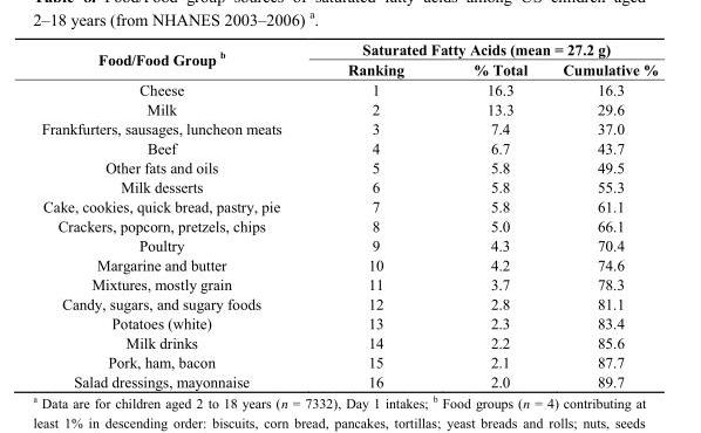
<table><thead><tr><td rowspan="2">Food/Food Group <sup>b</sup></td><td colspan="3">Saturated Fatty Acids (mean = 27.2 g)</td></tr><tr><td>Ranking</td><td>% Total</td><td>Cumulative %</td></tr></thead><tbody><tr><td>Cheese</td><td>1</td><td>16.3</td><td>16.3</td></tr><tr><td>Milk</td><td>2</td><td>13.3</td><td>29.6</td></tr><tr><td>Frankfurters, sausages, luncheon meats</td><td>3</td><td>7.4</td><td>37.0</td></tr><tr><td>Beef</td><td>4</td><td>6.7</td><td>43.7</td></tr><tr><td>Other fats and oils</td><td>5</td><td>5.8</td><td>49.5</td></tr><tr><td>Milk desserts</td><td>6</td><td>5.8</td><td>55.3</td></tr><tr><td>Cake, cookies, quick bread, pastry, pie</td><td>7</td><td>5.8</td><td>61.1</td></tr><tr><td>Crackers, popcorn, pretzels, chips</td><td>8</td><td>5.0</td><td>66.1</td></tr><tr><td>Poultry</td><td>9</td><td>4.3</td><td>70.4</td></tr><tr><td>Margarine and butter</td><td>10</td><td>4.2</td><td>74.6</td></tr><tr><td>Mixtures, mostly grain</td><td>11</td><td>3.7</td><td>78.3</td></tr><tr><td>Candy, sugars, and sugary foods</td><td>12</td><td>2.8</td><td>81.1</td></tr><tr><td>Potatoes (white)</td><td>13</td><td>2.3</td><td>83.4</td></tr><tr><td>Milk drinks</td><td>14</td><td>2.2</td><td>85.6</td></tr><tr><td>Pork, ham, bacon</td><td>15</td><td>2.1</td><td>87.7</td></tr><tr><td>Salad dressings, mayonnaise</td><td>16</td><td>2.0</td><td>89.7</td></tr></tbody></table>